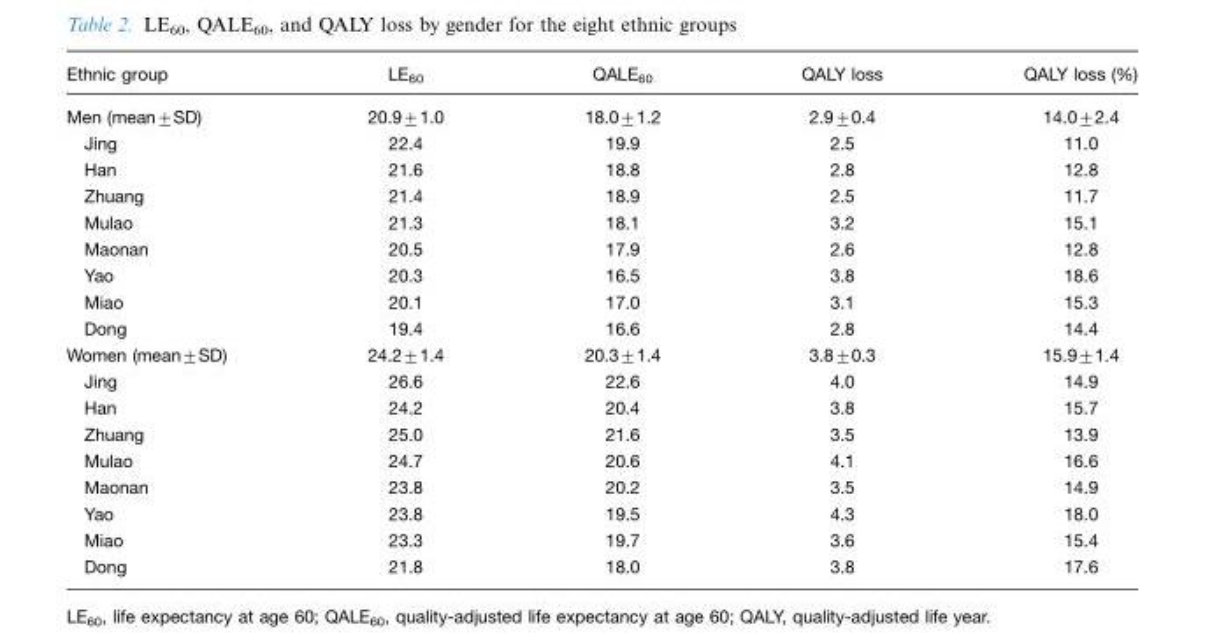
<table><thead><tr><td>Ethnic group</td><td>LE<sub>60</sub></td><td>QALE<sub>60</sub></td><td>QALY loss</td><td>QALY loss (%)</td></tr></thead><tbody><tr><td>Men (mean±SD)</td><td>20.9±1.0</td><td>18.0±1.2</td><td>2.9±0.4</td><td>14.0±2.4</td></tr><tr><td>Jing</td><td>22.4</td><td>19.9</td><td>2.5</td><td>11.0</td></tr><tr><td>Han</td><td>21.6</td><td>18.8</td><td>2.8</td><td>12.8</td></tr><tr><td>Zhuang</td><td>21.4</td><td>18.9</td><td>2.5</td><td>11.7</td></tr><tr><td>Mulao</td><td>21.3</td><td>18.1</td><td>3.2</td><td>15.1</td></tr><tr><td>Maonan</td><td>20.5</td><td>17.9</td><td>2.6</td><td>12.8</td></tr><tr><td>Yao</td><td>20.3</td><td>16.5</td><td>3.8</td><td>18.6</td></tr><tr><td>Miao</td><td>20.1</td><td>17.0</td><td>3.1</td><td>15.3</td></tr><tr><td>Dong</td><td>19.4</td><td>16.6</td><td>2.8</td><td>14.4</td></tr><tr><td>Women (mean±SD)</td><td>24.2±1.4</td><td>20.3±1.4</td><td>3.8±0.3</td><td>15.9±1.4</td></tr><tr><td>Jing</td><td>26.6</td><td>22.6</td><td>4.0</td><td>14.9</td></tr><tr><td>Han</td><td>24.2</td><td>20.4</td><td>3.8</td><td>15.7</td></tr><tr><td>Zhuang</td><td>25.0</td><td>21.6</td><td>3.5</td><td>13.9</td></tr><tr><td>Mulao</td><td>24.7</td><td>20.6</td><td>4.1</td><td>16.6</td></tr><tr><td>Maonan</td><td>23.8</td><td>20.2</td><td>3.5</td><td>14.9</td></tr><tr><td>Yao</td><td>23.8</td><td>19.5</td><td>4.3</td><td>18.0</td></tr><tr><td>Miao</td><td>23.3</td><td>19.7</td><td>3.6</td><td>15.4</td></tr><tr><td>Dong</td><td>21.8</td><td>18.0</td><td>3.8</td><td>17.6</td></tr></tbody></table>